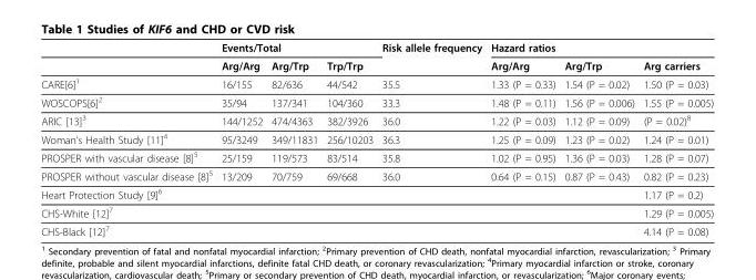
<table><thead><tr><td rowspan="2"></td><td colspan="3">Events/Total</td><td rowspan="2">Risk allele frequency</td><td colspan="3">Hazard ratios</td></tr><tr><td>Arg/Arg</td><td>Arg/Trp</td><td>Trp/Trp</td><td>Arg/Arg</td><td>Arg/Trp</td><td>Arg carriers</td></tr></thead><tbody><tr><td>CARE[6]<sup>1</sup></td><td>16/155</td><td>82/636</td><td>44/542</td><td>35.5</td><td>1.33 (P = 0.33)</td><td>1.54 (P = 0.02)</td><td>1.50 (P = 0.03)</td></tr><tr><td>WOSCOPS[6]<sup>2</sup></td><td>35/94</td><td>137/341</td><td>104/360</td><td>33.3</td><td>1.48 (P = 0.11)</td><td>1.56 (P = 0.006)</td><td>1.55 (P = 0.005)</td></tr><tr><td>ARIC [13]<sup>3</sup></td><td>144/1252</td><td>474/4363</td><td>382/3926</td><td>36.0</td><td>1.22 (P = 0.03)</td><td>1.12 (P = 0.09)</td><td>(P = 0.02)<sup>8</sup></td></tr><tr><td>Woman’s Health Study [11]<sup>4</sup></td><td>95/3249</td><td>349/11831</td><td>256/10203</td><td>36.3</td><td>1.25 (P = 0.09)</td><td>1.23 (P = 0.02)</td><td>1.24 (P = 0.01)</td></tr><tr><td>PROSPER with vascular disease [8]<sup>5</sup></td><td>25/159</td><td>119/573</td><td>83/514</td><td>35.8</td><td>1.02 (P = 0.95)</td><td>1.36 (P = 0.03)</td><td>1.28 (P = 0.07)</td></tr><tr><td>PROSPER without vascular disease [8]<sup>5</sup></td><td>13/209</td><td>70/759</td><td>69/668</td><td>36.0</td><td>0.64 (P = 0.15)</td><td>0.87 (P = 0.43)</td><td>0.82 (P = 0.23)</td></tr><tr><td>Heart Protection Study [9]<sup>6</sup></td><td></td><td></td><td></td><td></td><td></td><td></td><td>1.17 (P = 0.2)</td></tr><tr><td>CHS-White [12]<sup>7</sup></td><td></td><td></td><td></td><td></td><td></td><td></td><td>1.29 (P = 0.005)</td></tr><tr><td>CHS-Black [12]<sup>7</sup></td><td></td><td></td><td></td><td></td><td></td><td></td><td>4.14 (P = 0.08)</td></tr></tbody></table>